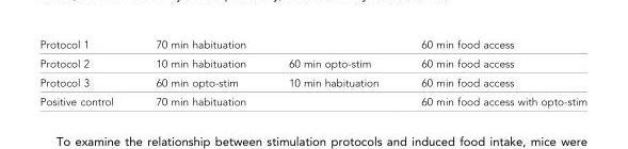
<table><tbody><tr><td>Protocol 1</td><td colspan="2">70 min habituation</td><td>60 min food access</td></tr><tr><td>Protocol 2</td><td>10 min habituation</td><td>60 min opto-stim</td><td>60 min food access</td></tr><tr><td>Protocol 3</td><td>60 min opto-stim</td><td>10 min habituation</td><td>60 min food access</td></tr><tr><td>Positive control</td><td colspan="2">70 min habituation</td><td>60 min food access with opto-stim</td></tr></tbody></table>